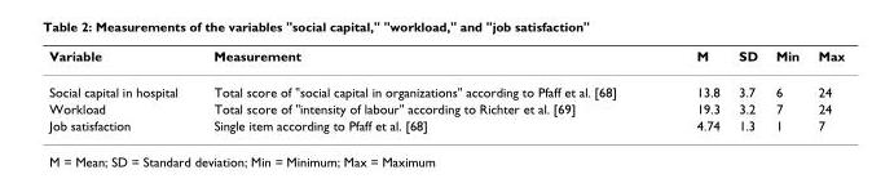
<table><thead><tr><td>Variable</td><td>Measurement</td><td>M</td><td>SD</td><td>Min</td><td>Max</td></tr></thead><tbody><tr><td>Social capital in hospital</td><td>Total score of &quot;social capital in organizations&quot; according to Pfaff et al. [68]</td><td>13.8</td><td>3.7</td><td>6</td><td>24</td></tr><tr><td>Workload</td><td>Total score of &quot;intensity of labour&quot; according to Richter et al. [69]</td><td>19.3</td><td>3.2</td><td>7</td><td>24</td></tr><tr><td>Job satisfaction</td><td>Single item according to Pfaff et al. [68]</td><td>4.74</td><td>1.3</td><td>1</td><td>7</td></tr></tbody></table>